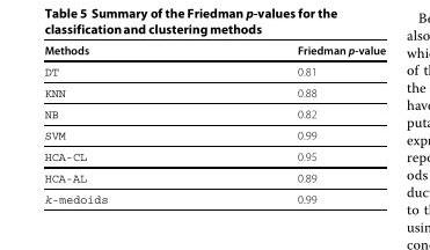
<table><thead><tr><td>Methods</td><td>Friedman p-value</td></tr></thead><tbody><tr><td>DT</td><td>0.81</td></tr><tr><td>KNN</td><td>0.88</td></tr><tr><td>NB</td><td>0.82</td></tr><tr><td>SVM</td><td>0.99</td></tr><tr><td>HCA-CL</td><td>0.95</td></tr><tr><td>HCA-AL</td><td>0.89</td></tr><tr><td>k-medoids</td><td>0.99</td></tr></tbody></table>